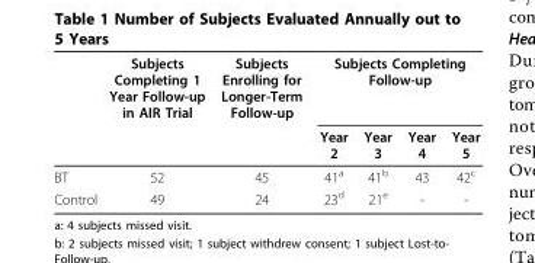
<table><thead><tr><td rowspan="2"></td><td rowspan="2">Subjects Completing 1 Year Follow-up in AIR Trial</td><td rowspan="2">Subjects Enrolling for Longer-Term Follow-up</td><td colspan="4">Subjects Completing Follow-up</td></tr><tr><td>Year 2</td><td>Year 3</td><td>Year 4</td><td>Year 5</td></tr></thead><tbody><tr><td>BT</td><td>52</td><td>45</td><td>41<sup>a</sup></td><td>41<sup>b</sup></td><td>43</td><td>42<sup>c</sup></td></tr><tr><td>Control</td><td>49</td><td>24</td><td>23<sup>d</sup></td><td>21<sup>e</sup></td><td>-</td><td>-</td></tr></tbody></table>